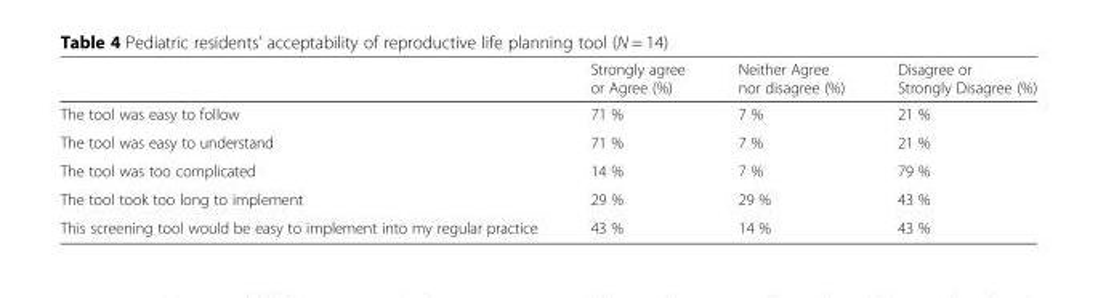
<table><thead><tr><td></td><td>Strongly agree or Agree (%)</td><td>Neither Agree nor disagree (%)</td><td>Disagree or Strongly Disagree (%)</td></tr></thead><tbody><tr><td>The tool was easy to follow</td><td>71 %</td><td>7 %</td><td>21 %</td></tr><tr><td>The tool was easy to understand</td><td>71 %</td><td>7 %</td><td>21 %</td></tr><tr><td>The tool was too complicated</td><td>14 %</td><td>7 %</td><td>79 %</td></tr><tr><td>The tool took too long to implement</td><td>29 %</td><td>29 %</td><td>43 %</td></tr><tr><td>This screening tool would be easy to implement into my regular practice</td><td>43 %</td><td>14 %</td><td>43 %</td></tr></tbody></table>